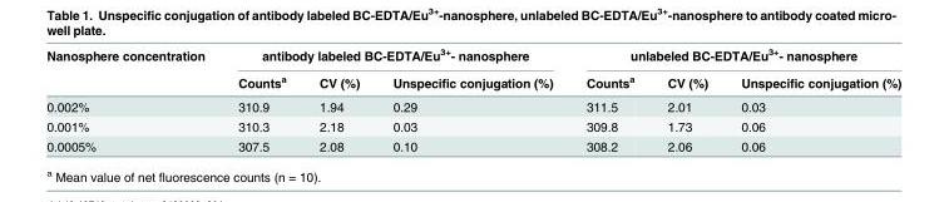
<table><thead><tr><td rowspan="2">Nanosphere concentration</td><td colspan="3">antibody labeled BC-EDTA/Eu<sup>3+</sup>- nanosphere</td><td colspan="3">unlabeled BC-EDTA/Eu<sup>3+</sup>- nanosphere</td></tr><tr><td>Counts<sup>a</sup></td><td>CV (%)</td><td>Unspecific conjugation (%)</td><td>Counts<sup>a</sup></td><td>CV (%)</td><td>Unspecific conjugation (%)</td></tr></thead><tbody><tr><td>0.002%</td><td>310.9</td><td>1.94</td><td>0.29</td><td>311.5</td><td>2.01</td><td>0.03</td></tr><tr><td>0.001%</td><td>310.3</td><td>2.18</td><td>0.03</td><td>309.8</td><td>1.73</td><td>0.06</td></tr><tr><td>0.0005%</td><td>307.5</td><td>2.08</td><td>0.10</td><td>308.2</td><td>2.06</td><td>0.06</td></tr></tbody></table>